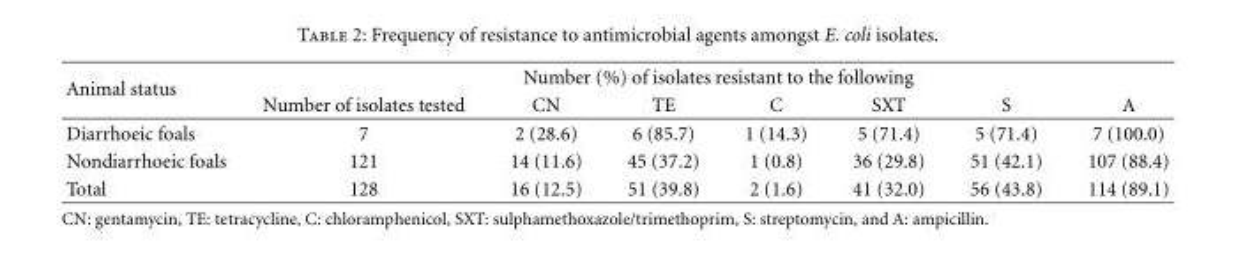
<table><thead><tr><td rowspan="2">Animal status</td><td colspan="7">Number (%) of isolates resistant to the following</td></tr><tr><td>Number of isolates tested</td><td>CN</td><td>TE</td><td>C</td><td>SXT</td><td>S</td><td>A</td></tr></thead><tbody><tr><td>Diarrhoeic foals</td><td>7</td><td>2 (28.6)</td><td>6 (85.7)</td><td>1 (14.3)</td><td>5 (71.4)</td><td>5 (71.4)</td><td>7 (100.0)</td></tr><tr><td>Nondiarrhoeic foals</td><td>121</td><td>14 (11.6)</td><td>45 (37.2)</td><td>1 (0.8)</td><td>36 (29.8)</td><td>51 (42.1)</td><td>107 (88.4)</td></tr><tr><td>Total</td><td>128</td><td>16 (12.5)</td><td>51 (39.8)</td><td>2 (1.6)</td><td>41 (32.0)</td><td>56 (43.8)</td><td>114 (89.1)</td></tr></tbody></table>